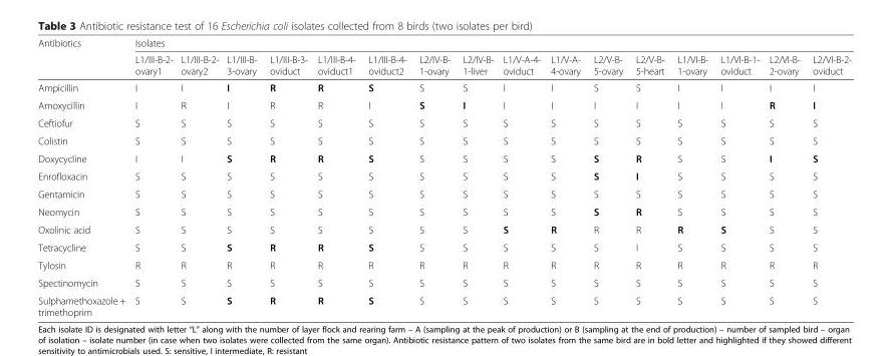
<table><thead><tr><td rowspan="2">Antibiotics</td><td colspan="16">Isolates</td></tr><tr><td>L1/III-B-2- ovary1</td><td>L1/III-B-2- ovary2</td><td>L1/III-B- 3-ovary</td><td>L1/III-B-3- oviduct</td><td>L1/III-B-4- oviduct1</td><td>L1/III-B-4- oviduct2</td><td>L2/IV-B- 1-ovary</td><td>L2/IV-B- 1-liver</td><td>L1/V-A-4- oviduct</td><td>L1/V-A- 4-ovary</td><td>L2/V-B- 5-ovary</td><td>L2/V-B- 5-heart</td><td>L1/VI-B- 1-ovary</td><td>L1/VI-B-1- oviduct</td><td>L2/VI-B- 2-ovary</td><td>L2/VI-B-2- oviduct</td></tr></thead><tbody><tr><td>Ampicillin</td><td>I</td><td>I</td><td>I</td><td>R</td><td>R</td><td>S</td><td>S</td><td>S</td><td>I</td><td>I</td><td>S</td><td>S</td><td>I</td><td>I</td><td>I</td><td>I</td></tr><tr><td>Amoxycillin</td><td>I</td><td>R</td><td>I</td><td>R</td><td>R</td><td>I</td><td>S</td><td>I</td><td>I</td><td>I</td><td>I</td><td>I</td><td>I</td><td>I</td><td>R</td><td>I</td></tr><tr><td>Ceftiofur</td><td>S</td><td>S</td><td>S</td><td>S</td><td>S</td><td>S</td><td>S</td><td>S</td><td>S</td><td>S</td><td>S</td><td>S</td><td>S</td><td>S</td><td>S</td><td>S</td></tr><tr><td>Colistin</td><td>S</td><td>S</td><td>S</td><td>S</td><td>S</td><td>S</td><td>S</td><td>S</td><td>S</td><td>S</td><td>S</td><td>S</td><td>S</td><td>S</td><td>S</td><td>S</td></tr><tr><td>Doxycycline</td><td>I</td><td>I</td><td>S</td><td>R</td><td>R</td><td>S</td><td>S</td><td>S</td><td>S</td><td>S</td><td>S</td><td>R</td><td>S</td><td>S</td><td>I</td><td>S</td></tr><tr><td>Enrofloxacin</td><td>S</td><td>S</td><td>S</td><td>S</td><td>S</td><td>S</td><td>S</td><td>S</td><td>S</td><td>S</td><td>S</td><td>I</td><td>S</td><td>S</td><td>S</td><td>S</td></tr><tr><td>Gentamicin</td><td>S</td><td>S</td><td>S</td><td>S</td><td>S</td><td>S</td><td>S</td><td>S</td><td>S</td><td>S</td><td>S</td><td>S</td><td>S</td><td>S</td><td>S</td><td>S</td></tr><tr><td>Neomycin</td><td>S</td><td>S</td><td>S</td><td>S</td><td>S</td><td>S</td><td>S</td><td>S</td><td>S</td><td>S</td><td>S</td><td>R</td><td>S</td><td>S</td><td>S</td><td>S</td></tr><tr><td>Oxolinic acid</td><td>S</td><td>S</td><td>S</td><td>S</td><td>S</td><td>S</td><td>S</td><td>S</td><td>S</td><td>R</td><td>R</td><td>R</td><td>R</td><td>S</td><td>S</td><td>S</td></tr><tr><td>Tetracycline</td><td>S</td><td>S</td><td>S</td><td>R</td><td>R</td><td>S</td><td>S</td><td>S</td><td>S</td><td>S</td><td>S</td><td>I</td><td>S</td><td>S</td><td>S</td><td>S</td></tr><tr><td>Tylosin</td><td>R</td><td>R</td><td>R</td><td>R</td><td>R</td><td>R</td><td>R</td><td>R</td><td>R</td><td>R</td><td>R</td><td>R</td><td>R</td><td>R</td><td>R</td><td>R</td></tr><tr><td>Spectinomycin</td><td>S</td><td>S</td><td>S</td><td>S</td><td>S</td><td>S</td><td>S</td><td>S</td><td>S</td><td>S</td><td>S</td><td>S</td><td>S</td><td>S</td><td>S</td><td>S</td></tr><tr><td>Sulphamethoxazole + trimethoprim</td><td>S</td><td>S</td><td>S</td><td>R</td><td>R</td><td>S</td><td>S</td><td>S</td><td>S</td><td>S</td><td>S</td><td>S</td><td>S</td><td>S</td><td>S</td><td>S</td></tr></tbody></table>